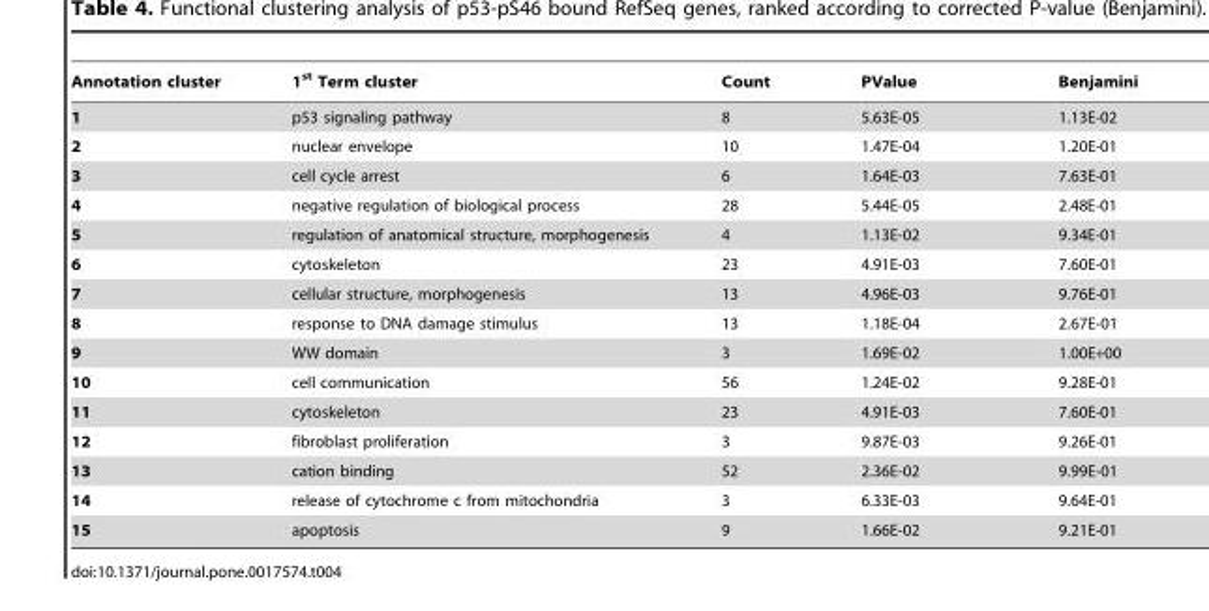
<table><thead><tr><td>Annotation cluster</td><td>1<sup>st</sup> Term cluster</td><td>Count</td><td>PValue</td><td>Benjamini</td></tr></thead><tbody><tr><td>1</td><td>p53 signaling pathway</td><td>8</td><td>5.63E-05</td><td>1.13E-02</td></tr><tr><td>2</td><td>nuclear envelope</td><td>10</td><td>1.47E-04</td><td>1.20E-01</td></tr><tr><td>3</td><td>cell cycle arrest</td><td>6</td><td>1.64E-03</td><td>7.63E-01</td></tr><tr><td>4</td><td>negative regulation of biological process</td><td>28</td><td>5.44E-05</td><td>2.48E-01</td></tr><tr><td>5</td><td>regulation of anatomical structure, morphogenesis</td><td>4</td><td>1.13E-02</td><td>9.34E-01</td></tr><tr><td>6</td><td>cytoskeleton</td><td>23</td><td>4.91E-03</td><td>7.60E-01</td></tr><tr><td>7</td><td>cellular structure, morphogenesis</td><td>13</td><td>4.96E-03</td><td>9.76E-01</td></tr><tr><td>8</td><td>response to DNA damage stimulus</td><td>13</td><td>1.18E-04</td><td>2.67E-01</td></tr><tr><td>9</td><td>WW domain</td><td>3</td><td>1.69E-02</td><td>1.00E+00</td></tr><tr><td>10</td><td>cell communication</td><td>56</td><td>1.24E-02</td><td>9.28E-01</td></tr><tr><td>11</td><td>cytoskeleton</td><td>23</td><td>4.91E-03</td><td>7.60E-01</td></tr><tr><td>12</td><td>fibroblast proliferation</td><td>3</td><td>9.87E-03</td><td>9.26E-01</td></tr><tr><td>13</td><td>cation binding</td><td>52</td><td>2.36E-02</td><td>9.99E-01</td></tr><tr><td>14</td><td>release of cytochrome c from mitochondria</td><td>3</td><td>6.33E-03</td><td>9.64E-01</td></tr><tr><td>15</td><td>apoptosis</td><td>9</td><td>1.66E-02</td><td>9.21E-01</td></tr></tbody></table>